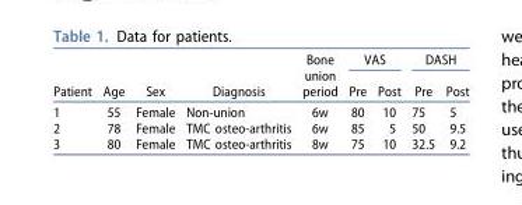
<table><thead><tr><td rowspan="2">Patient</td><td rowspan="2">Age</td><td rowspan="2">Sex</td><td rowspan="2">Diagnosis</td><td rowspan="2">Bone union period</td><td colspan="2">VAS</td><td colspan="2">DASH</td></tr><tr><td>Pre</td><td>Post</td><td>Pre</td><td>Post</td></tr></thead><tbody><tr><td>1</td><td>55</td><td>Female</td><td>Non-union</td><td>6w</td><td>80</td><td>10</td><td>75</td><td>5</td></tr><tr><td>2</td><td>78</td><td>Female</td><td>TMC osteo-arthritis</td><td>6w</td><td>85</td><td>5</td><td>50</td><td>9.5</td></tr><tr><td>3</td><td>80</td><td>Female</td><td>TMC osteo-arthritis</td><td>8w</td><td>75</td><td>10</td><td>32.5</td><td>9.2</td></tr></tbody></table>